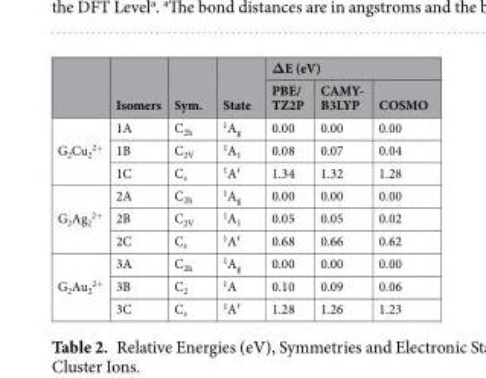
<table><thead><tr><td rowspan="2"></td><td rowspan="2">Isomers</td><td rowspan="2">Sym.</td><td rowspan="2">State</td><td colspan="3">ΔE (eV)</td></tr><tr><td>PBE/ TZ2P</td><td>CAMY- B3LYP</td><td>COSMO</td></tr></thead><tbody><tr><td rowspan="3">G<sub>2</sub>Cu<sub>2</sub> <sup>2+</sup></td><td>1A</td><td>C<sub>2h</sub></td><td><sup>1</sup>A<sub>g</sub></td><td>0.00</td><td>0.00</td><td>0.00</td></tr><tr><td>1B</td><td>C<sub>2V</sub></td><td><sup>1</sup>A<sub>1</sub></td><td>0.08</td><td>0.07</td><td>0.04</td></tr><tr><td>1C</td><td>C<sub>s</sub></td><td><sup>1</sup>A′</td><td>1.34</td><td>1.32</td><td>1.28</td></tr><tr><td rowspan="3">G<sub>2</sub>Ag<sub>2</sub> <sup>2+</sup></td><td>2A</td><td>C<sub>2h</sub></td><td><sup>1</sup>A<sub>g</sub></td><td>0.00</td><td>0.00</td><td>0.00</td></tr><tr><td>2B</td><td>C<sub>2V</sub></td><td><sup>1</sup>A<sub>1</sub></td><td>0.05</td><td>0.05</td><td>0.02</td></tr><tr><td>2C</td><td>C<sub>s</sub></td><td><sup>1</sup>A′</td><td>0.68</td><td>0.66</td><td>0.62</td></tr><tr><td rowspan="3">G<sub>2</sub>Au<sub>2</sub> <sup>2+</sup></td><td>3A</td><td>C<sub>2h</sub></td><td><sup>1</sup>A<sub>g</sub></td><td>0.00</td><td>0.00</td><td>0.00</td></tr><tr><td>3B</td><td>C<sub>2</sub></td><td><sup>1</sup>A</td><td>0.10</td><td>0.09</td><td>0.06</td></tr><tr><td>3C</td><td>C<sub>s</sub></td><td><sup>1</sup>A′</td><td>1.28</td><td>1.26</td><td>1.23</td></tr></tbody></table>